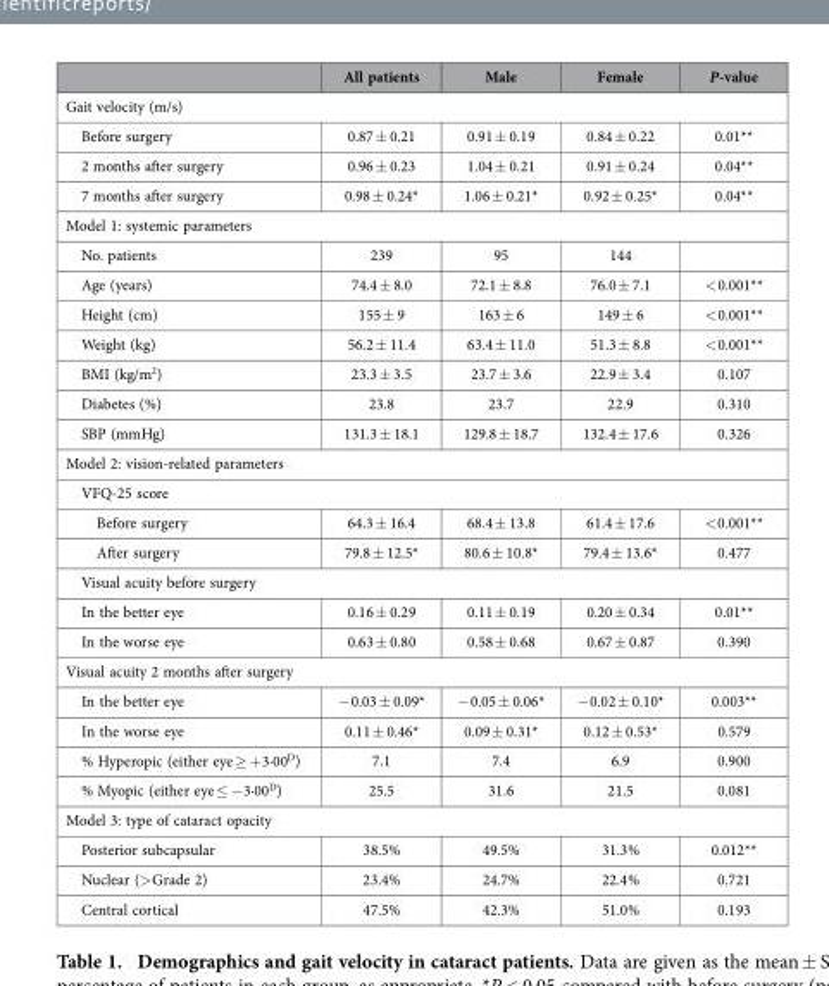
<table><thead><tr><td></td><td>All patients</td><td>Male</td><td>Female</td><td>P-value</td></tr></thead><tbody><tr><td colspan="5">Gait velocity (m/s)</td></tr><tr><td>Before surgery</td><td>0.87 ± 0.21</td><td>0.91 ± 0.19</td><td>0.84 ± 0.22</td><td>0.01**</td></tr><tr><td>2 months after surgery</td><td>0.96 ± 0.23</td><td>1.04 ± 0.21</td><td>0.91 ± 0.24</td><td>0.04**</td></tr><tr><td>7 months after surgery</td><td>0.98 ± 0.24*</td><td>1.06 ± 0.21*</td><td>0.92 ± 0.25*</td><td>0.04**</td></tr><tr><td colspan="5">Model 1: systemic parameters</td></tr><tr><td>No. patients</td><td>239</td><td>95</td><td>144</td><td></td></tr><tr><td>Age (years)</td><td>74.4 ± 8.0</td><td>72.1 ± 8.8</td><td>76.0 ± 7.1</td><td>&lt; 0.001**</td></tr><tr><td>Height (cm)</td><td>155 ± 9</td><td>163 ± 6</td><td>149 ± 6</td><td>&lt; 0.001**</td></tr><tr><td>Weight (kg)</td><td>56.2 ± 11.4</td><td>63.4 ± 11.0</td><td>51.3 ± 8.8</td><td>&lt; 0.001**</td></tr><tr><td>BMI (kg/m<sup>2</sup>)</td><td>23.3 ± 3.5</td><td>23.7 ± 3.6</td><td>22.9 ± 3.4</td><td>0.107</td></tr><tr><td>Diabetes (%)</td><td>23.8</td><td>23.7</td><td>22.9</td><td>0.310</td></tr><tr><td>SBP (mmHg)</td><td>131.3 ± 18.1</td><td>129.8 ± 18.7</td><td>132.4 ± 17.6</td><td>0.326</td></tr><tr><td colspan="5">Model 2: vision-related parameters</td></tr><tr><td colspan="5">VFQ-25 score</td></tr><tr><td>Before surgery</td><td>64.3 ± 16.4</td><td>68.4 ± 13.8</td><td>61.4 ± 17.6</td><td>&lt; 0.001**</td></tr><tr><td>After surgery</td><td>79.8 ± 12.5*</td><td>80.6 ± 10.8*</td><td>79.4 ± 13.6*</td><td>0.477</td></tr><tr><td colspan="5">Visual acuity before surgery</td></tr><tr><td>In the better eye</td><td>0.16 ± 0.29</td><td>0.11 ± 0.19</td><td>0.20 ± 0.34</td><td>0.01**</td></tr><tr><td>In the worse eye</td><td>0.63 ± 0.80</td><td>0.58 ± 0.68</td><td>0.67 ± 0.87</td><td>0.390</td></tr><tr><td colspan="5">Visual acuity 2 months after surgery</td></tr><tr><td>In the better eye</td><td>− 0.03 ± 0.09*</td><td>− 0.05 ± 0.06*</td><td>− 0.02 ± 0.10*</td><td>0.003**</td></tr><tr><td>In the worse eye</td><td>0.11 ± 0.46*</td><td>0.09 ± 0.31*</td><td>0.12 ± 0.53*</td><td>0.579</td></tr><tr><td>% Hyperopic (either eye ≥ + 3·00<sup>D</sup>)</td><td>7.1</td><td>7.4</td><td>6.9</td><td>0.900</td></tr><tr><td>% Myopic (either eye ≤ − 3·00<sup>D</sup>)</td><td>25.5</td><td>31.6</td><td>21.5</td><td>0.081</td></tr><tr><td colspan="5">Model 3: type of cataract opacity</td></tr><tr><td>Posterior subcapsular</td><td>38.5%</td><td>49.5%</td><td>31.3%</td><td>0.012**</td></tr><tr><td>Nuclear (&gt; Grade 2)</td><td>23.4%</td><td>24.7%</td><td>22.4%</td><td>0.721</td></tr><tr><td>Central cortical</td><td>47.5%</td><td>42.3%</td><td>51.0%</td><td>0.193</td></tr></tbody></table>